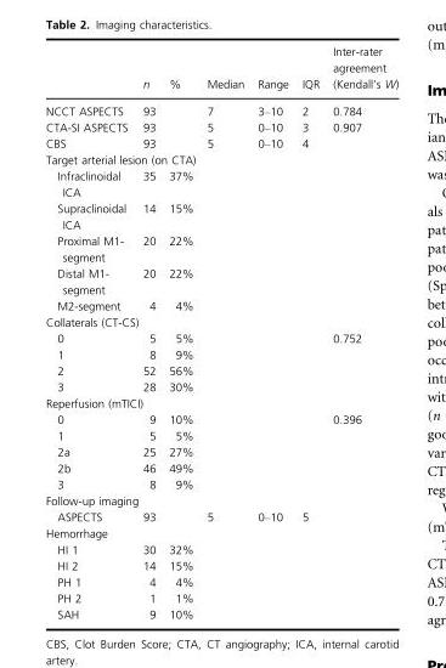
<table><thead><tr><td></td><td>n</td><td>%</td><td>Median</td><td>Range</td><td>IQR</td><td>Inter-rater agreement (Kendall’s W)</td></tr></thead><tbody><tr><td>NCCT ASPECTS</td><td>93</td><td></td><td>7</td><td>3–10</td><td>2</td><td>0.784</td></tr><tr><td>CTA-SI ASPECTS</td><td>93</td><td></td><td>5</td><td>0–10</td><td>3</td><td>0.907</td></tr><tr><td>CBS</td><td>93</td><td></td><td>5</td><td>0–10</td><td>4</td><td></td></tr><tr><td colspan="7">Target arterial lesion (on CTA)</td></tr><tr><td>Infraclinoidal ICA</td><td>35</td><td>37%</td><td></td><td></td><td></td><td></td></tr><tr><td>Supraclinoidal ICA</td><td>14</td><td>15%</td><td></td><td></td><td></td><td></td></tr><tr><td>Proximal M1- segment</td><td>20</td><td>22%</td><td></td><td></td><td></td><td></td></tr><tr><td>Distal M1- segment</td><td>20</td><td>22%</td><td></td><td></td><td></td><td></td></tr><tr><td>M2-segment</td><td>4</td><td>4%</td><td></td><td></td><td></td><td></td></tr><tr><td colspan="7">Collaterals (CT-CS)</td></tr><tr><td>0</td><td>5</td><td>5%</td><td></td><td></td><td></td><td rowspan="4">0.752</td></tr><tr><td>1</td><td>8</td><td>9%</td><td></td><td></td><td></td></tr><tr><td>2</td><td>52</td><td>56%</td><td></td><td></td><td></td></tr><tr><td>3</td><td>28</td><td>30%</td><td></td><td></td><td></td></tr><tr><td colspan="7">Reperfusion (mTICI)</td></tr><tr><td>0</td><td>9</td><td>10%</td><td></td><td></td><td></td><td rowspan="5">0.396</td></tr><tr><td>1</td><td>5</td><td>5%</td><td></td><td></td><td></td></tr><tr><td>2a</td><td>25</td><td>27%</td><td></td><td></td><td></td></tr><tr><td>2b</td><td>46</td><td>49%</td><td></td><td></td><td></td></tr><tr><td>3</td><td>8</td><td>9%</td><td></td><td></td><td></td></tr><tr><td colspan="7">Follow-up imaging</td></tr><tr><td>ASPECTS</td><td>93</td><td></td><td>5</td><td>0–10</td><td>5</td><td></td></tr><tr><td colspan="7">Hemorrhage</td></tr><tr><td>HI 1</td><td>30</td><td>32%</td><td></td><td></td><td></td><td></td></tr><tr><td>HI 2</td><td>14</td><td>15%</td><td></td><td></td><td></td><td></td></tr><tr><td>PH 1</td><td>4</td><td>4%</td><td></td><td></td><td></td><td></td></tr><tr><td>PH 2</td><td>1</td><td>1%</td><td></td><td></td><td></td><td></td></tr><tr><td>SAH</td><td>9</td><td>10%</td><td></td><td></td><td></td><td></td></tr></tbody></table>